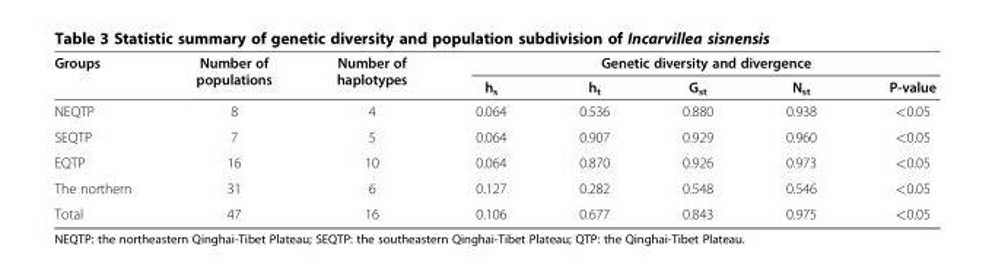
<table><thead><tr><td rowspan="2">Groups</td><td rowspan="2">Number of populations</td><td rowspan="2">Number of haplotypes</td><td colspan="5">Genetic diversity and divergence</td></tr><tr><td>h<sub>s</sub></td><td>h<sub>t</sub></td><td>G<sub>st</sub></td><td>N<sub>st</sub></td><td>P-value</td></tr></thead><tbody><tr><td>NEQTP</td><td>8</td><td>4</td><td>0.064</td><td>0.536</td><td>0.880</td><td>0.938</td><td>&lt;0.05</td></tr><tr><td>SEQTP</td><td>7</td><td>5</td><td>0.064</td><td>0.907</td><td>0.929</td><td>0.960</td><td>&lt;0.05</td></tr><tr><td>EQTP</td><td>16</td><td>10</td><td>0.064</td><td>0.870</td><td>0.926</td><td>0.973</td><td>&lt;0.05</td></tr><tr><td>The northern</td><td>31</td><td>6</td><td>0.127</td><td>0.282</td><td>0.548</td><td>0.546</td><td>&lt;0.05</td></tr><tr><td>Total</td><td>47</td><td>16</td><td>0.106</td><td>0.677</td><td>0.843</td><td>0.975</td><td>&lt;0.05</td></tr></tbody></table>